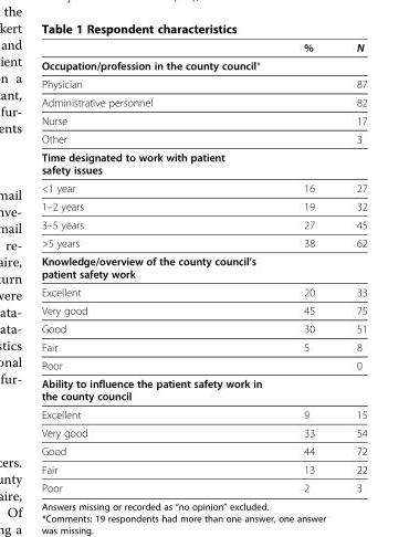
<table><thead><tr><td></td><td>%</td><td>N</td></tr></thead><tbody><tr><td colspan="3">Occupation/profession in the county council*</td></tr><tr><td>Physician</td><td></td><td>87</td></tr><tr><td>Administrative personnel</td><td></td><td>82</td></tr><tr><td>Nurse</td><td></td><td>17</td></tr><tr><td>Other</td><td></td><td>3</td></tr><tr><td colspan="3">Time designated to work with patient safety issues</td></tr><tr><td>&lt;1 year</td><td>16</td><td>27</td></tr><tr><td>1–2 years</td><td>19</td><td>32</td></tr><tr><td>3–5 years</td><td>27</td><td>45</td></tr><tr><td>&gt;5 years</td><td>38</td><td>62</td></tr><tr><td colspan="3">Knowledge/overview of the county council’s patient safety work</td></tr><tr><td>Excellent</td><td>20</td><td>33</td></tr><tr><td>Very good</td><td>45</td><td>75</td></tr><tr><td>Good</td><td>30</td><td>51</td></tr><tr><td>Fair</td><td>5</td><td>8</td></tr><tr><td>Poor</td><td></td><td>0</td></tr><tr><td colspan="3">Ability to influence the patient safety work in the county council</td></tr><tr><td>Excellent</td><td>9</td><td>15</td></tr><tr><td>Very good</td><td>33</td><td>54</td></tr><tr><td>Good</td><td>44</td><td>72</td></tr><tr><td>Fair</td><td>13</td><td>22</td></tr><tr><td>Poor</td><td>2</td><td>3</td></tr></tbody></table>